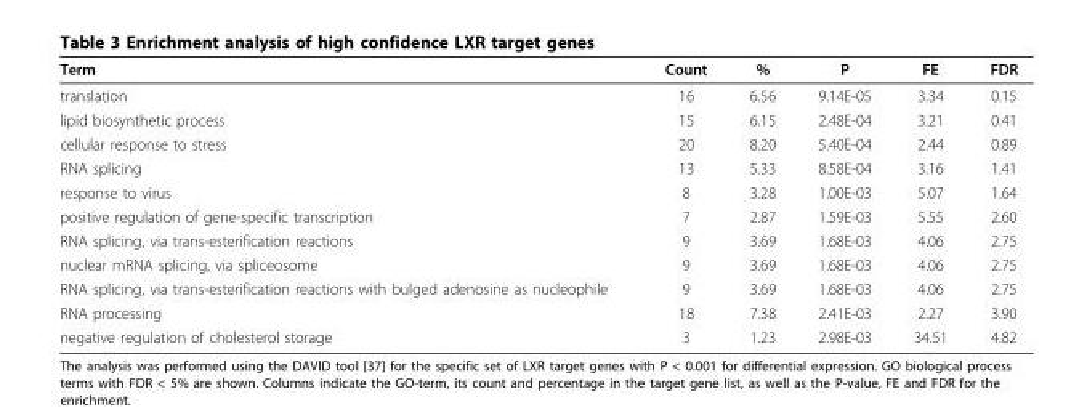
<table><thead><tr><td>Term</td><td>Count</td><td>%</td><td>P</td><td>FE</td><td>FDR</td></tr></thead><tbody><tr><td>translation</td><td>16</td><td>6.56</td><td>9.14E-05</td><td>3.34</td><td>0.15</td></tr><tr><td>lipid biosynthetic process</td><td>15</td><td>6.15</td><td>2.48E-04</td><td>3.21</td><td>0.41</td></tr><tr><td>cellular response to stress</td><td>20</td><td>8.20</td><td>5.40E-04</td><td>2.44</td><td>0.89</td></tr><tr><td>RNA splicing</td><td>13</td><td>5.33</td><td>8.58E-04</td><td>3.16</td><td>1.41</td></tr><tr><td>response to virus</td><td>8</td><td>3.28</td><td>1.00E-03</td><td>5.07</td><td>1.64</td></tr><tr><td>positive regulation of gene-specific transcription</td><td>7</td><td>2.87</td><td>1.59E-03</td><td>5.55</td><td>2.60</td></tr><tr><td>RNA splicing, via trans-esterification reactions</td><td>9</td><td>3.69</td><td>1.68E-03</td><td>4.06</td><td>2.75</td></tr><tr><td>nuclear mRNA splicing, via spliceosome</td><td>9</td><td>3.69</td><td>1.68E-03</td><td>4.06</td><td>2.75</td></tr><tr><td>RNA splicing, via trans-esterification reactions with bulged adenosine as nucleophile</td><td>9</td><td>3.69</td><td>1.68E-03</td><td>4.06</td><td>2.75</td></tr><tr><td>RNA processing</td><td>18</td><td>7.38</td><td>2.41E-03</td><td>2.27</td><td>3.90</td></tr><tr><td>negative regulation of cholesterol storage</td><td>3</td><td>1.23</td><td>2.98E-03</td><td>34.51</td><td>4.82</td></tr></tbody></table>